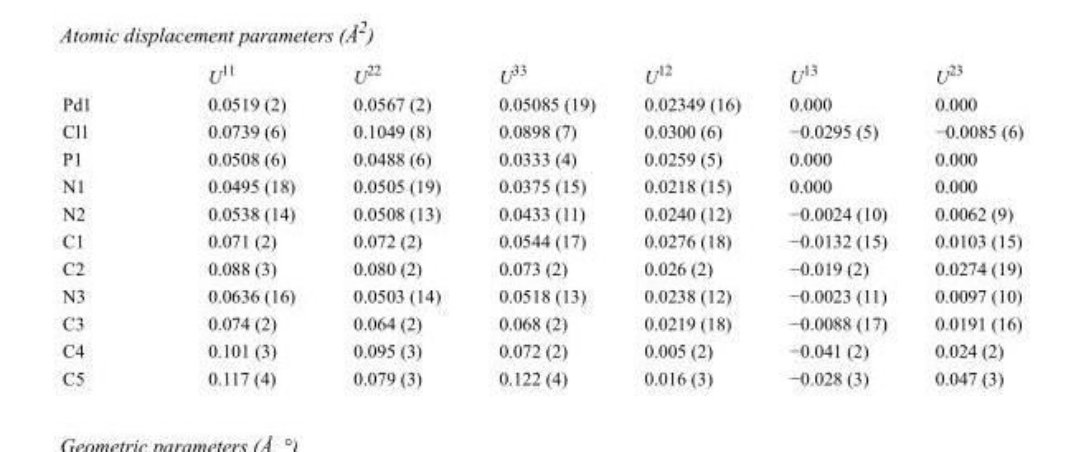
<table><thead><tr><td></td><td>U<sup>11</sup></td><td>U<sup>22</sup></td><td>U<sup>33</sup></td><td>U<sup>12</sup></td><td>U<sup>13</sup></td><td>U<sup>23</sup></td></tr></thead><tbody><tr><td>Pd1</td><td>0.0519 (2)</td><td>0.0567 (2)</td><td>0.05085 (19)</td><td>0.02349 (16)</td><td>0.000</td><td>0.000</td></tr><tr><td>Cl1</td><td>0.0739 (6)</td><td>0.1049 (8)</td><td>0.0898 (7)</td><td>0.0300 (6)</td><td>−0.0295 (5)</td><td>−0.0085 (6)</td></tr><tr><td>P1</td><td>0.0508 (6)</td><td>0.0488 (6)</td><td>0.0333 (4)</td><td>0.0259 (5)</td><td>0.000</td><td>0.000</td></tr><tr><td>N1</td><td>0.0495 (18)</td><td>0.0505 (19)</td><td>0.0375 (15)</td><td>0.0218 (15)</td><td>0.000</td><td>0.000</td></tr><tr><td>N2</td><td>0.0538 (14)</td><td>0.0508 (13)</td><td>0.0433 (11)</td><td>0.0240 (12)</td><td>−0.0024 (10)</td><td>0.0062 (9)</td></tr><tr><td>C1</td><td>0.071 (2)</td><td>0.072 (2)</td><td>0.0544 (17)</td><td>0.0276 (18)</td><td>−0.0132 (15)</td><td>0.0103 (15)</td></tr><tr><td>C2</td><td>0.088 (3)</td><td>0.080 (2)</td><td>0.073 (2)</td><td>0.026 (2)</td><td>−0.019 (2)</td><td>0.0274 (19)</td></tr><tr><td>N3</td><td>0.0636 (16)</td><td>0.0503 (14)</td><td>0.0518 (13)</td><td>0.0238 (12)</td><td>−0.0023 (11)</td><td>0.0097 (10)</td></tr><tr><td>C3</td><td>0.074 (2)</td><td>0.064 (2)</td><td>0.068 (2)</td><td>0.0219 (18)</td><td>−0.0088 (17)</td><td>0.0191 (16)</td></tr><tr><td>C4</td><td>0.101 (3)</td><td>0.095 (3)</td><td>0.072 (2)</td><td>0.005 (2)</td><td>−0.041 (2)</td><td>0.024 (2)</td></tr><tr><td>C5</td><td>0.117 (4)</td><td>0.079 (3)</td><td>0.122 (4)</td><td>0.016 (3)</td><td>−0.028 (3)</td><td>0.047 (3)</td></tr></tbody></table>